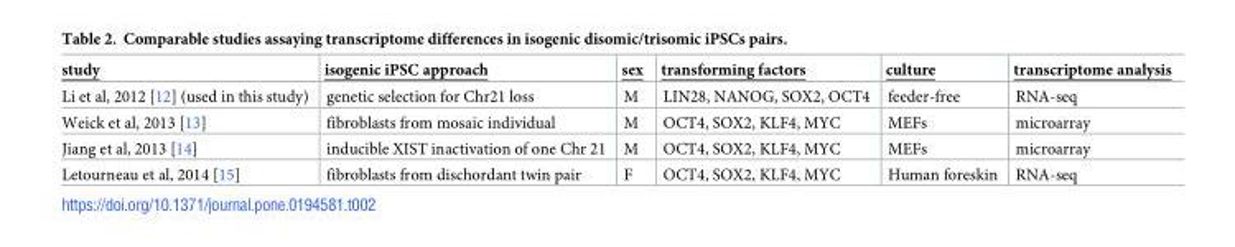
<table><thead><tr><td>study</td><td>isogenic iPSC approach</td><td>sex</td><td>transforming factors</td><td>culture</td><td>transcriptome analysis</td></tr></thead><tbody><tr><td>Li et al, 2012 [12] (used in this study)</td><td>genetic selection for Chr21 loss</td><td>M</td><td>LIN28, NANOG, SOX2, OCT4</td><td>feeder-free</td><td>RNA-seq</td></tr><tr><td>Weick et al, 2013 [13]</td><td>fibroblasts from mosaic individual</td><td>M</td><td>OCT4, SOX2, KLF4, MYC</td><td>MEFs</td><td>microarray</td></tr><tr><td>Jiang et al, 2013 [14]</td><td>inducible XIST inactivation of one Chr 21</td><td>M</td><td>OCT4, SOX2, KLF4, MYC</td><td>MEFs</td><td>microarray</td></tr><tr><td>Letourneau et al, 2014 [15]</td><td>fibroblasts from dischordant twin pair</td><td>F</td><td>OCT4, SOX2, KLF4, MYC</td><td>Human foreskin</td><td>RNA-seq</td></tr></tbody></table>